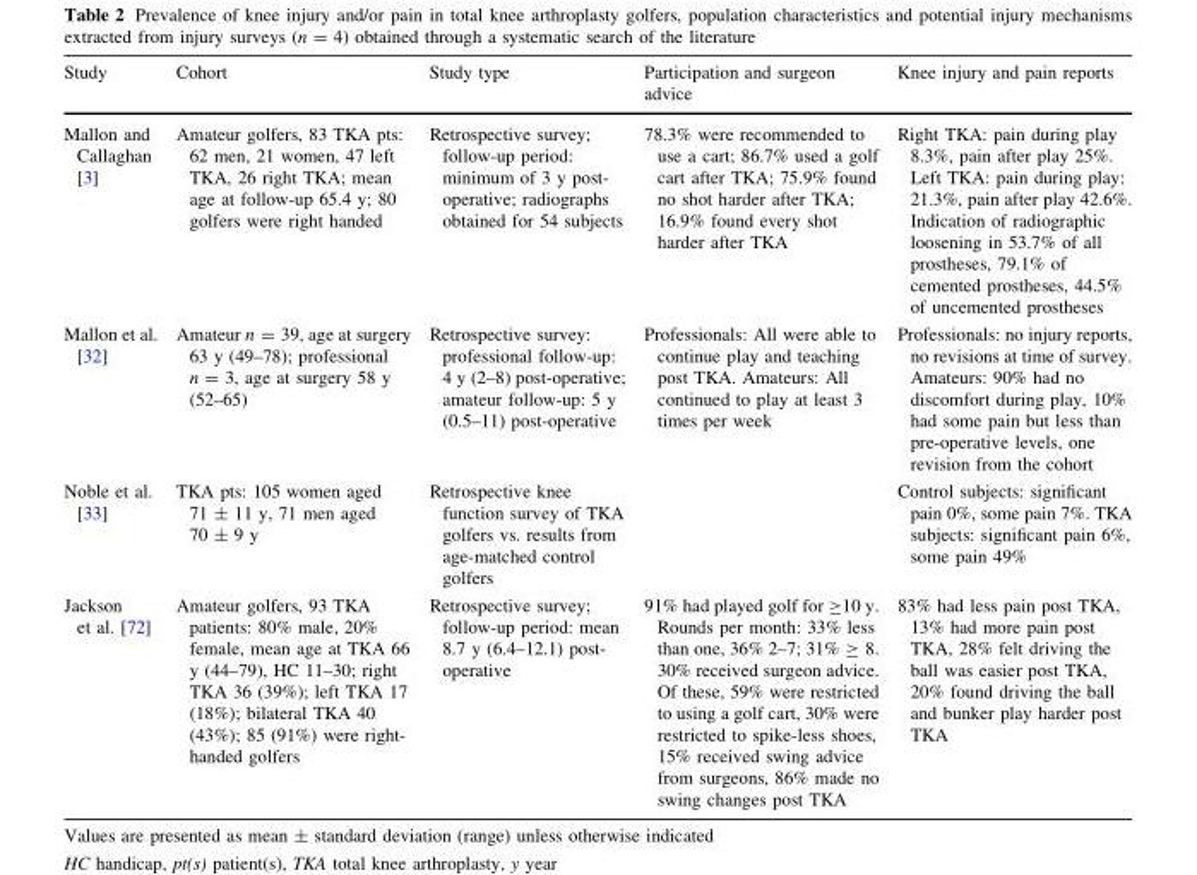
<table><thead><tr><td>Study</td><td>Cohort</td><td>Study type</td><td>Participation and surgeon advice</td><td>Knee injury and pain reports</td></tr></thead><tbody><tr><td>Mallon and Callaghan [3]</td><td>Amateur golfers, 83 TKA pts: 62 men, 21 women, 47 left TKA, 26 right TKA; mean age at follow-up 65.4 y; 80 golfers were right handed</td><td>Retrospective survey; follow-up period: minimum of 3 y post- operative; radiographs obtained for 54 subjects</td><td>78.3% were recommended to use a cart; 86.7% used a golf cart after TKA; 75.9% found no shot harder after TKA; 16.9% found every shot harder after TKA</td><td>Right TKA: pain during play 8.3%, pain after play 25%. Left TKA: pain during play: 21.3%, pain after play 42.6%. Indication of radiographic loosening in 53.7% of all prostheses, 79.1% of cemented prostheses, 44.5% of uncemented prostheses</td></tr><tr><td>Mallon et al. [32]</td><td>Amateur n = 39, age at surgery 63 y (49–78); professional n = 3, age at surgery 58 y (52–65)</td><td>Retrospective survey: professional follow-up: 4 y (2–8) post-operative; amateur follow-up: 5 y (0.5–11) post-operative</td><td>Professionals: All were able to continue play and teaching post TKA. Amateurs: All continued to play at least 3 times per week</td><td>Professionals: no injury reports, no revisions at time of survey. Amateurs: 90% had no discomfort during play, 10% had some pain but less than pre-operative levels, one revision from the cohort</td></tr><tr><td>Noble et al. [33]</td><td>TKA pts: 105 women aged 71 ± 11 y, 71 men aged 70 ± 9 y</td><td>Retrospective knee function survey of TKA golfers vs. results from age-matched control golfers</td><td></td><td>Control subjects: significant pain 0%, some pain 7%. TKA subjects: significant pain 6%, some pain 49%</td></tr><tr><td>Jackson et al. [72]</td><td>Amateur golfers, 93 TKA patients: 80% male, 20% female, mean age at TKA 66 y (44–79), HC 11–30; right TKA 36 (39%); left TKA 17 (18%); bilateral TKA 40 (43%); 85 (91%) were right- handed golfers</td><td>Retrospective survey; follow-up period: mean 8.7 y (6.4–12.1) post- operative</td><td>91% had played golf for ≥10 y. Rounds per month: 33% less than one, 36% 2–7; 31% ≥ 8. 30% received surgeon advice. Of these, 59% were restricted to using a golf cart, 30% were restricted to spike-less shoes, 15% received swing advice from surgeons, 86% made no swing changes post TKA</td><td>83% had less pain post TKA, 13% had more pain post TKA, 28% felt driving the ball was easier post TKA, 20% found driving the ball and bunker play harder post TKA</td></tr></tbody></table>